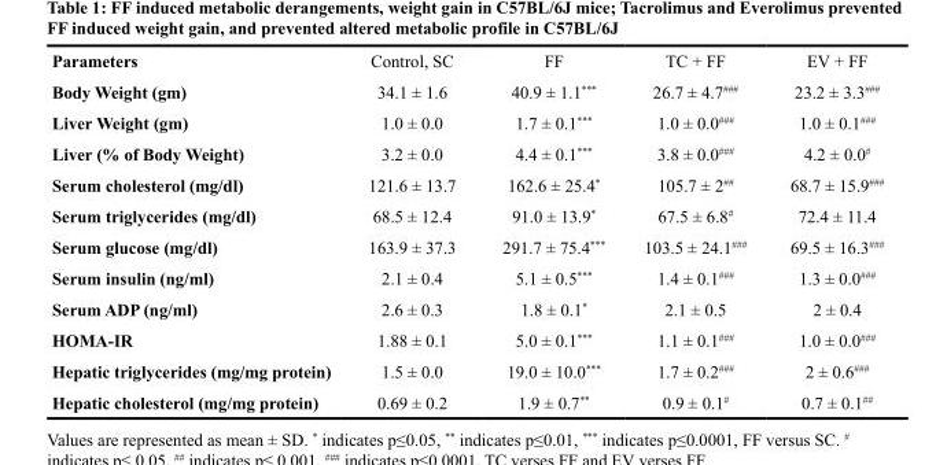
<table><tbody><tr><td>Parameters</td><td>Control, SC</td><td>FF</td><td>TC + FF</td><td>EV + FF</td></tr><tr><td>Body Weight (gm)</td><td>34.1 ± 1.6</td><td>40.9 ± 1.1***</td><td>26.7 ± 4.7<sup>###</sup></td><td>23.2 ± 3.3<sup>###</sup></td></tr><tr><td>Liver Weight (gm)</td><td>1.0 ± 0.0</td><td>1.7 ± 0.1***</td><td>1.0 ± 0.0<sup>###</sup></td><td>1.0 ± 0.1<sup>###</sup></td></tr><tr><td>Liver (% of Body Weight)</td><td>3.2 ± 0.0</td><td>4.4 ± 0.1***</td><td>3.8 ± 0.0<sup>###</sup></td><td>4.2 ± 0.0<sup>#</sup></td></tr><tr><td>Serum cholesterol (mg/dl)</td><td>121.6 ± 13.7</td><td>162.6 ± 25.4*</td><td>105.7 ± 2<sup>##</sup></td><td>68.7 ± 15.9<sup>###</sup></td></tr><tr><td>Serum triglycerides (mg/dl)</td><td>68.5 ± 12.4</td><td>91.0 ± 13.9*</td><td>67.5 ± 6.8<sup>#</sup></td><td>72.4 ± 11.4</td></tr><tr><td>Serum glucose (mg/dl)</td><td>163.9 ± 37.3</td><td>291.7 ± 75.4***</td><td>103.5 ± 24.1<sup>###</sup></td><td>69.5 ± 16.3<sup>###</sup></td></tr><tr><td>Serum insulin (ng/ml)</td><td>2.1 ± 0.4</td><td>5.1 ± 0.5***</td><td>1.4 ± 0.1<sup>###</sup></td><td>1.3 ± 0.0<sup>###</sup></td></tr><tr><td>Serum ADP (ng/ml)</td><td>2.6 ± 0.3</td><td>1.8 ± 0.1*</td><td>2.1 ± 0.5</td><td>2 ± 0.4</td></tr><tr><td>HOMA-IR</td><td>1.88 ± 0.1</td><td>5.0 ± 0.1***</td><td>1.1 ± 0.1<sup>###</sup></td><td>1.0 ± 0.0<sup>###</sup></td></tr><tr><td>Hepatic triglycerides (mg/mg protein)</td><td>1.5 ± 0.0</td><td>19.0 ± 10.0***</td><td>1.7 ± 0.2<sup>###</sup></td><td>2 ± 0.6<sup>###</sup></td></tr><tr><td>Hepatic cholesterol (mg/mg protein)</td><td>0.69 ± 0.2</td><td>1.9 ± 0.7**</td><td>0.9 ± 0.1<sup>#</sup></td><td>0.7 ± 0.1<sup>##</sup></td></tr></tbody></table>